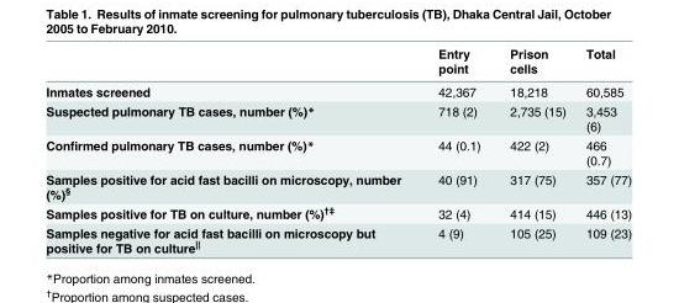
<table><thead><tr><td></td><td>Entry point</td><td>Prison cells</td><td>Total</td></tr></thead><tbody><tr><td>Inmates screened</td><td>42,367</td><td>18,218</td><td>60,585</td></tr><tr><td>Suspected pulmonary TB cases, number (%)*</td><td>718 (2)</td><td>2,735 (15)</td><td>3,453 (6)</td></tr><tr><td>Confirmed pulmonary TB cases, number (%)*</td><td>44 (0.1)</td><td>422 (2)</td><td>466 (0.7)</td></tr><tr><td>Samples positive for acid fast bacilli on microscopy, number (%)<sup>§</sup></td><td>40 (91)</td><td>317 (75)</td><td>357 (77)</td></tr><tr><td>Samples positive for TB on culture, number (%)<sup>†‡</sup></td><td>32 (4)</td><td>414 (15)</td><td>446 (13)</td></tr><tr><td>Samples negative for acid fast bacilli on microscopy but positive for TB on culture<sup>||</sup></td><td>4 (9)</td><td>105 (25)</td><td>109 (23)</td></tr></tbody></table>